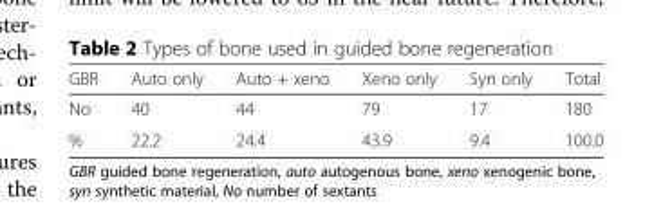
<table><thead><tr><td>GBR</td><td>Auto only</td><td>Auto + xeno</td><td>Xeno only</td><td>Syn only</td><td>Total</td></tr></thead><tbody><tr><td>No</td><td>40</td><td>44</td><td>79</td><td>17</td><td>180</td></tr><tr><td>%</td><td>22.2</td><td>24.4</td><td>43.9</td><td>9.4</td><td>100.0</td></tr></tbody></table>